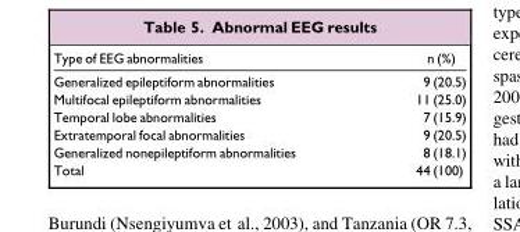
<table><thead><tr><td>Type of EEG abnormalities</td><td>n (%)</td></tr></thead><tbody><tr><td>Generalized epileptiform abnormalities</td><td>9 (20.5)</td></tr><tr><td>Multifocal epileptiform abnormalities</td><td>11 (25.0)</td></tr><tr><td>Temporal lobe abnormalities</td><td>7 (15.9)</td></tr><tr><td>Extratemporal focal abnormalities</td><td>9 (20.5)</td></tr><tr><td>Generalized nonepileptiform abnormalities</td><td>8 (18.1)</td></tr><tr><td>Total</td><td>44 (100)</td></tr></tbody></table>